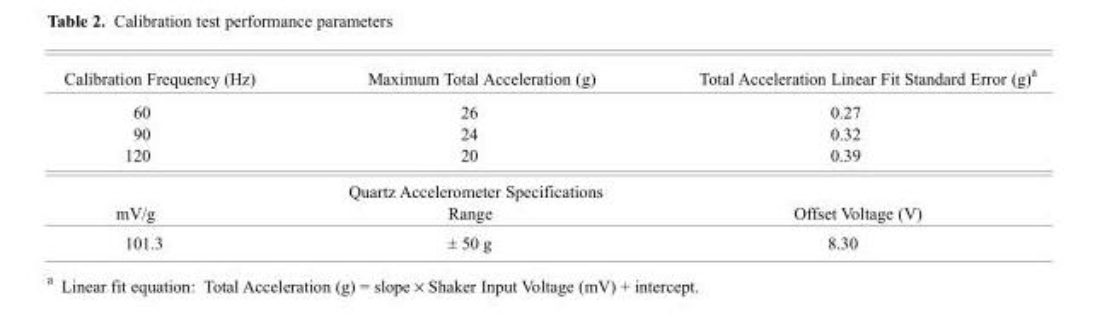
<table><thead><tr><td>Calibration Frequency (Hz)</td><td>Maximum Total Acceleration (g)</td><td>Total Acceleration Linear Fit Standard Error (g)<sup>a</sup></td></tr></thead><tbody><tr><td>60</td><td>26</td><td>0.27</td></tr><tr><td>90</td><td>24</td><td>0.32</td></tr><tr><td>120</td><td>20</td><td>0.39</td></tr><tr><td>mV/g</td><td>Quartz Accelerometer Specifications Range</td><td>Offset Voltage (V)</td></tr><tr><td>101.3</td><td>± 50 g</td><td>8.30</td></tr></tbody></table>